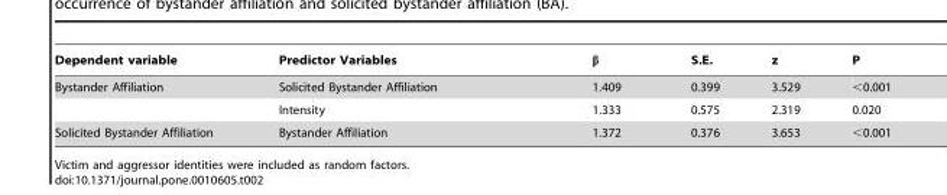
<table><thead><tr><td>Dependent variable</td><td>Predictor Variables</td><td>β</td><td>S.E.</td><td>z</td><td>P</td></tr></thead><tbody><tr><td rowspan="2">Bystander Affiliation</td><td>Solicited Bystander Affiliation</td><td>1.409</td><td>0.399</td><td>3.529</td><td>&lt;0.001</td></tr><tr><td>Intensity</td><td>1.333</td><td>0.575</td><td>2.319</td><td>0.020</td></tr><tr><td>Solicited Bystander Affiliation</td><td>Bystander Affiliation</td><td>1.372</td><td>0.376</td><td>3.653</td><td>&lt;0.001</td></tr></tbody></table>